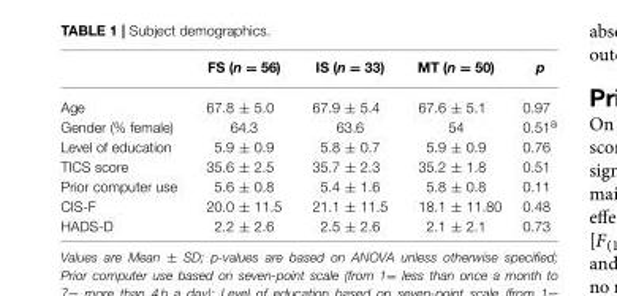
<table><thead><tr><td></td><td>FS (n = 56)</td><td>IS (n = 33)</td><td>MT (n = 50)</td><td>p</td></tr></thead><tbody><tr><td>Age</td><td>67.8 ± 5.0</td><td>67.9 ± 5.4</td><td>67.6 ± 5.1</td><td>0.97</td></tr><tr><td>Gender (% female)</td><td>64.3</td><td>63.6</td><td>54</td><td>0.51<sup>a</sup></td></tr><tr><td>Level of education</td><td>5.9 ± 0.9</td><td>5.8 ± 0.7</td><td>5.9 ± 0.9</td><td>0.76</td></tr><tr><td>TICS score</td><td>35.6 ± 2.5</td><td>35.7 ± 2.3</td><td>35.2 ± 1.8</td><td>0.51</td></tr><tr><td>Prior computer use</td><td>5.6 ± 0.8</td><td>5.4 ± 1.6</td><td>5.8 ± 0.8</td><td>0.11</td></tr><tr><td>CIS-F</td><td>20.0 ± 11.5</td><td>21.1 ± 11.5</td><td>18.1 ± 11.80</td><td>0.48</td></tr><tr><td>HADS-D</td><td>2.2 ± 2.6</td><td>2.5 ± 2.6</td><td>2.1 ± 2.1</td><td>0.73</td></tr></tbody></table>